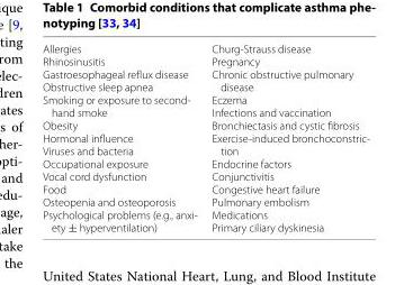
<table><tbody><tr><td>Allergies Rhinosinusitis Gastroesophageal reflux disease Obstructive sleep apnea Smoking or exposure to second- hand smoke Obesity Hormonal influence Viruses and bacteria Occupational exposure Vocal cord dysfunction Food Osteopenia and osteoporosis Psychological problems (e.g., anxi- ety ± hyperventilation)</td><td>Churg-Strauss disease Pregnancy Chronic obstructive pulmonary disease Eczema Infections and vaccination Bronchiectasis and cystic fibrosis Exercise-induced bronchoconstric- tion Endocrine factors Conjunctivitis Congestive heart failure Pulmonary embolism Medications Primary ciliary dyskinesia</td></tr></tbody></table>